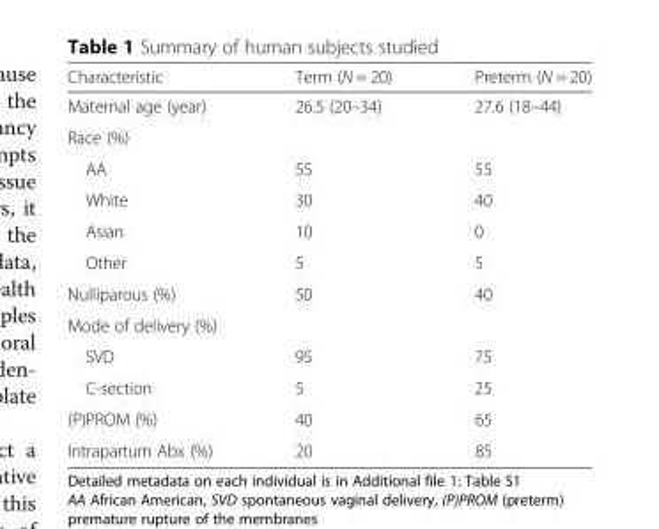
<table><thead><tr><td>Characteristic</td><td>Term (N = 20)</td><td>Preterm (N = 20)</td></tr></thead><tbody><tr><td>Maternal age (year)</td><td>26.5 (20–34)</td><td>27.6 (18–44)</td></tr><tr><td colspan="3">Race (%)</td></tr><tr><td>AA</td><td>55</td><td>55</td></tr><tr><td>White</td><td>30</td><td>40</td></tr><tr><td>Asian</td><td>10</td><td>0</td></tr><tr><td>Other</td><td>5</td><td>5</td></tr><tr><td>Nulliparous (%)</td><td>50</td><td>40</td></tr><tr><td colspan="3">Mode of delivery (%)</td></tr><tr><td>SVD</td><td>95</td><td>75</td></tr><tr><td>C-section</td><td>5</td><td>25</td></tr><tr><td>(P)PROM (%)</td><td>40</td><td>65</td></tr><tr><td>Intrapartum Abx (%)</td><td>20</td><td>85</td></tr></tbody></table>